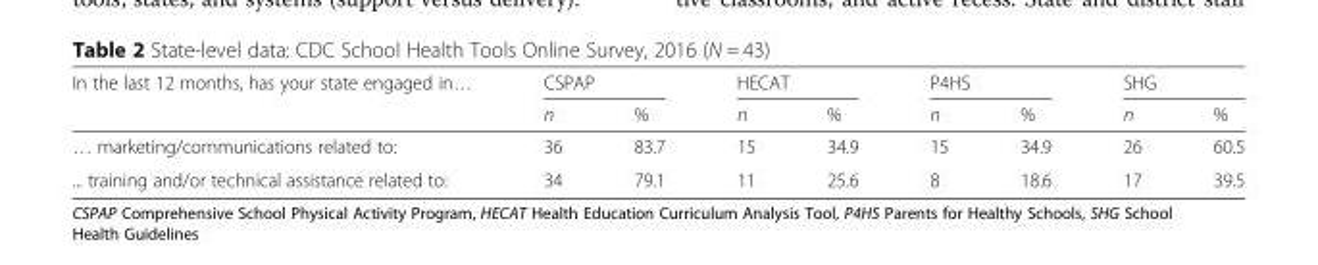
<table><thead><tr><td rowspan="2">In the last 12 months, has your state engaged in…</td><td colspan="2">CSPAP</td><td colspan="2">HECAT</td><td colspan="2">P4HS</td><td colspan="2">SHG</td></tr><tr><td>n</td><td>%</td><td>n</td><td>%</td><td>n</td><td>%</td><td>n</td><td>%</td></tr></thead><tbody><tr><td>… marketing/communications related to:</td><td>36</td><td>83.7</td><td>15</td><td>34.9</td><td>15</td><td>34.9</td><td>26</td><td>60.5</td></tr><tr><td>... training and/or technical assistance related to:</td><td>34</td><td>79.1</td><td>11</td><td>25.6</td><td>8</td><td>18.6</td><td>17</td><td>39.5</td></tr></tbody></table>